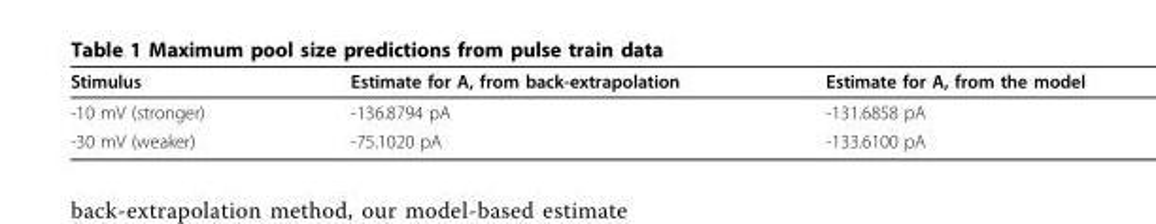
<table><thead><tr><td>Stimulus</td><td>Estimate for A, from back-extrapolation</td><td>Estimate for A, from the model</td></tr></thead><tbody><tr><td>-10 mV (stronger)</td><td>-136.8794 pA</td><td>-131.6858 pA</td></tr><tr><td>-30 mV (weaker)</td><td>-75.1020 pA</td><td>-133.6100 pA</td></tr></tbody></table>